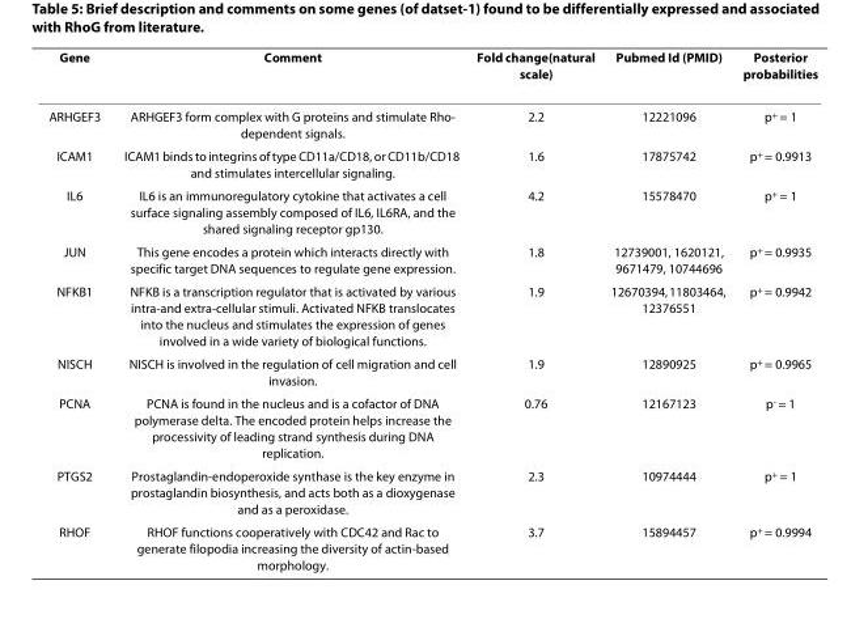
<table><thead><tr><td>Gene</td><td>Comment</td><td>Fold change(natural scale)</td><td>Pubmed Id (PMID)</td><td>Posterior probabilities</td></tr></thead><tbody><tr><td>ARHGEF3</td><td>ARHGEF3 form complex with G proteins and stimulate Rho- dependent signals.</td><td>2.2</td><td>12221096</td><td>p<sup>+</sup> = 1</td></tr><tr><td>ICAM1</td><td>ICAM1 binds to integrins of type CD11a/CD18, or CD11b/CD18 and stimulates intercellular signaling.</td><td>1.6</td><td>17875742</td><td>p<sup>+</sup> = 0.9913</td></tr><tr><td>IL6</td><td>IL6 is an immunoregulatory cytokine that activates a cell surface signaling assembly composed of IL6, IL6RA, and the shared signaling receptor gp130.</td><td>4.2</td><td>15578470</td><td>p<sup>+</sup> = 1</td></tr><tr><td>JUN</td><td>This gene encodes a protein which interacts directly with specific target DNA sequences to regulate gene expression.</td><td>1.8</td><td>12739001, 1620121, 9671479, 10744696</td><td>p<sup>+</sup> = 0.9935</td></tr><tr><td>NFKB1</td><td>NFKB is a transcription regulator that is activated by various intra-and extra-cellular stimuli. Activated NFKB translocates into the nucleus and stimulates the expression of genes involved in a wide variety of biological functions.</td><td>1.9</td><td>12670394, 11803464, 12376551</td><td>p<sup>+</sup> = 0.9942</td></tr><tr><td>NISCH</td><td>NISCH is involved in the regulation of cell migration and cell invasion.</td><td>1.9</td><td>12890925</td><td>p<sup>+</sup> = 0.9965</td></tr><tr><td>PCNA</td><td>PCNA is found in the nucleus and is a cofactor of DNA polymerase delta. The encoded protein helps increase the processivity of leading strand synthesis during DNA replication.</td><td>0.76</td><td>12167123</td><td>p<sup>-</sup> = 1</td></tr><tr><td>PTGS2</td><td>Prostaglandin-endoperoxide synthase is the key enzyme in prostaglandin biosynthesis, and acts both as a dioxygenase and as a peroxidase.</td><td>2.3</td><td>10974444</td><td>p<sup>+</sup> = 1</td></tr><tr><td>RHOF</td><td>RHOF functions cooperatively with CDC42 and Rac to generate filopodia increasing the diversity of actin-based morphology.</td><td>3.7</td><td>15894457</td><td>p<sup>+</sup> = 0.9994</td></tr></tbody></table>